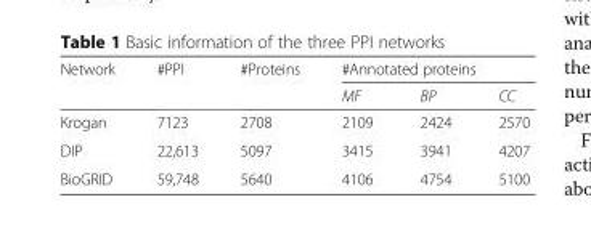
<table><thead><tr><td rowspan="2">Network</td><td rowspan="2">#PPI</td><td rowspan="2">#Proteins</td><td colspan="3">#Annotated proteins</td></tr><tr><td>MF</td><td>BP</td><td>CC</td></tr></thead><tbody><tr><td>Krogan</td><td>7123</td><td>2708</td><td>2109</td><td>2424</td><td>2570</td></tr><tr><td>DIP</td><td>22,613</td><td>5097</td><td>3415</td><td>3941</td><td>4207</td></tr><tr><td>BioGRID</td><td>59,748</td><td>5640</td><td>4106</td><td>4754</td><td>5100</td></tr></tbody></table>